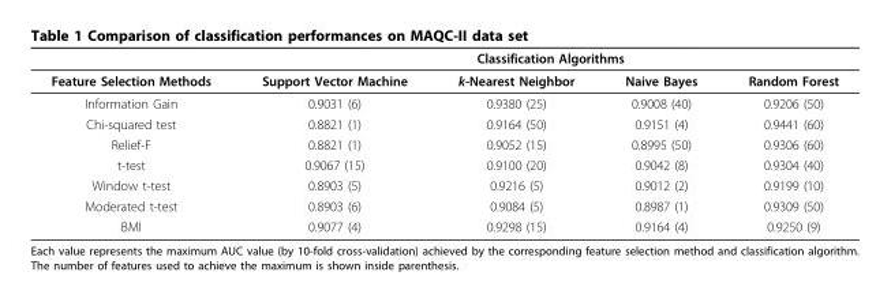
<table><thead><tr><td rowspan="2">Feature Selection Methods</td><td colspan="4">Classification Algorithms</td></tr><tr><td>Support Vector Machine</td><td>k-Nearest Neighbor</td><td>Naive Bayes</td><td>Random Forest</td></tr></thead><tbody><tr><td>Information Gain</td><td>0.9031 (6)</td><td>0.9380 (25)</td><td>0.9008 (40)</td><td>0.9206 (50)</td></tr><tr><td>Chi-squared test</td><td>0.8821 (1)</td><td>0.9164 (50)</td><td>0.9151 (4)</td><td>0.9441 (60)</td></tr><tr><td>Relief-F</td><td>0.8821 (1)</td><td>0.9052 (15)</td><td>0.8995 (50)</td><td>0.9306 (60)</td></tr><tr><td>t-test</td><td>0.9067 (15)</td><td>0.9100 (20)</td><td>0.9042 (8)</td><td>0.9304 (40)</td></tr><tr><td>Window t-test</td><td>0.8903 (5)</td><td>0.9216 (5)</td><td>0.9012 (2)</td><td>0.9199 (10)</td></tr><tr><td>Moderated t-test</td><td>0.8903 (6)</td><td>0.9084 (5)</td><td>0.8987 (1)</td><td>0.9309 (50)</td></tr><tr><td>BMI</td><td>0.9077 (4)</td><td>0.9298 (15)</td><td>0.9164 (4)</td><td>0.9250 (9)</td></tr></tbody></table>